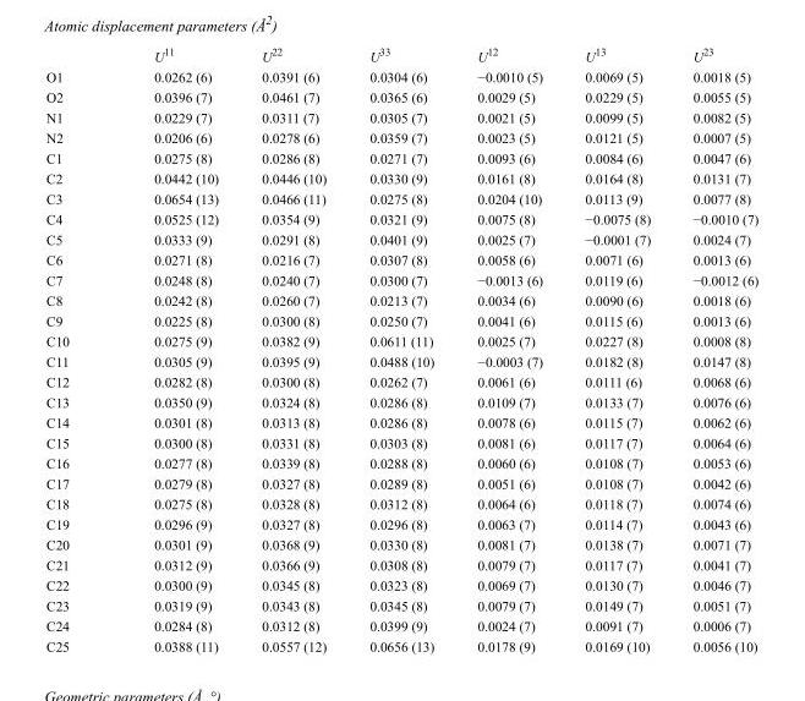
<table><thead><tr><td></td><td>U<sup>11</sup></td><td>U<sup>22</sup></td><td>U<sup>33</sup></td><td>U<sup>12</sup></td><td>U<sup>13</sup></td><td>U<sup>23</sup></td></tr></thead><tbody><tr><td>O1</td><td>0.0262 (6)</td><td>0.0391 (6)</td><td>0.0304 (6)</td><td>−0.0010 (5)</td><td>0.0069 (5)</td><td>0.0018 (5)</td></tr><tr><td>O2</td><td>0.0396 (7)</td><td>0.0461 (7)</td><td>0.0365 (6)</td><td>0.0029 (5)</td><td>0.0229 (5)</td><td>0.0055 (5)</td></tr><tr><td>N1</td><td>0.0229 (7)</td><td>0.0311 (7)</td><td>0.0305 (7)</td><td>0.0021 (5)</td><td>0.0099 (5)</td><td>0.0082 (5)</td></tr><tr><td>N2</td><td>0.0206 (6)</td><td>0.0278 (6)</td><td>0.0359 (7)</td><td>0.0023 (5)</td><td>0.0121 (5)</td><td>0.0007 (5)</td></tr><tr><td>C1</td><td>0.0275 (8)</td><td>0.0286 (8)</td><td>0.0271 (7)</td><td>0.0093 (6)</td><td>0.0084 (6)</td><td>0.0047 (6)</td></tr><tr><td>C2</td><td>0.0442 (10)</td><td>0.0446 (10)</td><td>0.0330 (9)</td><td>0.0161 (8)</td><td>0.0164 (8)</td><td>0.0131 (7)</td></tr><tr><td>C3</td><td>0.0654 (13)</td><td>0.0466 (11)</td><td>0.0275 (8)</td><td>0.0204 (10)</td><td>0.0113 (9)</td><td>0.0077 (8)</td></tr><tr><td>C4</td><td>0.0525 (12)</td><td>0.0354 (9)</td><td>0.0321 (9)</td><td>0.0075 (8)</td><td>−0.0075 (8)</td><td>−0.0010 (7)</td></tr><tr><td>C5</td><td>0.0333 (9)</td><td>0.0291 (8)</td><td>0.0401 (9)</td><td>0.0025 (7)</td><td>−0.0001 (7)</td><td>0.0024 (7)</td></tr><tr><td>C6</td><td>0.0271 (8)</td><td>0.0216 (7)</td><td>0.0307 (8)</td><td>0.0058 (6)</td><td>0.0071 (6)</td><td>0.0013 (6)</td></tr><tr><td>C7</td><td>0.0248 (8)</td><td>0.0240 (7)</td><td>0.0300 (7)</td><td>−0.0013 (6)</td><td>0.0119 (6)</td><td>−0.0012 (6)</td></tr><tr><td>C8</td><td>0.0242 (8)</td><td>0.0260 (7)</td><td>0.0213 (7)</td><td>0.0034 (6)</td><td>0.0090 (6)</td><td>0.0018 (6)</td></tr><tr><td>C9</td><td>0.0225 (8)</td><td>0.0300 (8)</td><td>0.0250 (7)</td><td>0.0041 (6)</td><td>0.0115 (6)</td><td>0.0013 (6)</td></tr><tr><td>C10</td><td>0.0275 (9)</td><td>0.0382 (9)</td><td>0.0611 (11)</td><td>0.0025 (7)</td><td>0.0227 (8)</td><td>0.0008 (8)</td></tr><tr><td>C11</td><td>0.0305 (9)</td><td>0.0395 (9)</td><td>0.0488 (10)</td><td>−0.0003 (7)</td><td>0.0182 (8)</td><td>0.0147 (8)</td></tr><tr><td>C12</td><td>0.0282 (8)</td><td>0.0300 (8)</td><td>0.0262 (7)</td><td>0.0061 (6)</td><td>0.0111 (6)</td><td>0.0068 (6)</td></tr><tr><td>C13</td><td>0.0350 (9)</td><td>0.0324 (8)</td><td>0.0286 (8)</td><td>0.0109 (7)</td><td>0.0133 (7)</td><td>0.0076 (6)</td></tr><tr><td>C14</td><td>0.0301 (8)</td><td>0.0313 (8)</td><td>0.0286 (8)</td><td>0.0078 (6)</td><td>0.0115 (7)</td><td>0.0062 (6)</td></tr><tr><td>C15</td><td>0.0300 (8)</td><td>0.0331 (8)</td><td>0.0303 (8)</td><td>0.0081 (6)</td><td>0.0117 (7)</td><td>0.0064 (6)</td></tr><tr><td>C16</td><td>0.0277 (8)</td><td>0.0339 (8)</td><td>0.0288 (8)</td><td>0.0060 (6)</td><td>0.0108 (7)</td><td>0.0053 (6)</td></tr><tr><td>C17</td><td>0.0279 (8)</td><td>0.0327 (8)</td><td>0.0289 (8)</td><td>0.0051 (6)</td><td>0.0108 (7)</td><td>0.0042 (6)</td></tr><tr><td>C18</td><td>0.0275 (8)</td><td>0.0328 (8)</td><td>0.0312 (8)</td><td>0.0064 (6)</td><td>0.0118 (7)</td><td>0.0074 (6)</td></tr><tr><td>C19</td><td>0.0296 (9)</td><td>0.0327 (8)</td><td>0.0296 (8)</td><td>0.0063 (7)</td><td>0.0114 (7)</td><td>0.0043 (6)</td></tr><tr><td>C20</td><td>0.0301 (9)</td><td>0.0368 (9)</td><td>0.0330 (8)</td><td>0.0081 (7)</td><td>0.0138 (7)</td><td>0.0071 (7)</td></tr><tr><td>C21</td><td>0.0312 (9)</td><td>0.0366 (9)</td><td>0.0308 (8)</td><td>0.0079 (7)</td><td>0.0117 (7)</td><td>0.0041 (7)</td></tr><tr><td>C22</td><td>0.0300 (9)</td><td>0.0345 (8)</td><td>0.0323 (8)</td><td>0.0069 (7)</td><td>0.0130 (7)</td><td>0.0046 (7)</td></tr><tr><td>C23</td><td>0.0319 (9)</td><td>0.0343 (8)</td><td>0.0345 (8)</td><td>0.0079 (7)</td><td>0.0149 (7)</td><td>0.0051 (7)</td></tr><tr><td>C24</td><td>0.0284 (8)</td><td>0.0312 (8)</td><td>0.0399 (9)</td><td>0.0024 (7)</td><td>0.0091 (7)</td><td>0.0006 (7)</td></tr><tr><td>C25</td><td>0.0388 (11)</td><td>0.0557 (12)</td><td>0.0656 (13)</td><td>0.0178 (9)</td><td>0.0169 (10)</td><td>0.0056 (10)</td></tr></tbody></table>